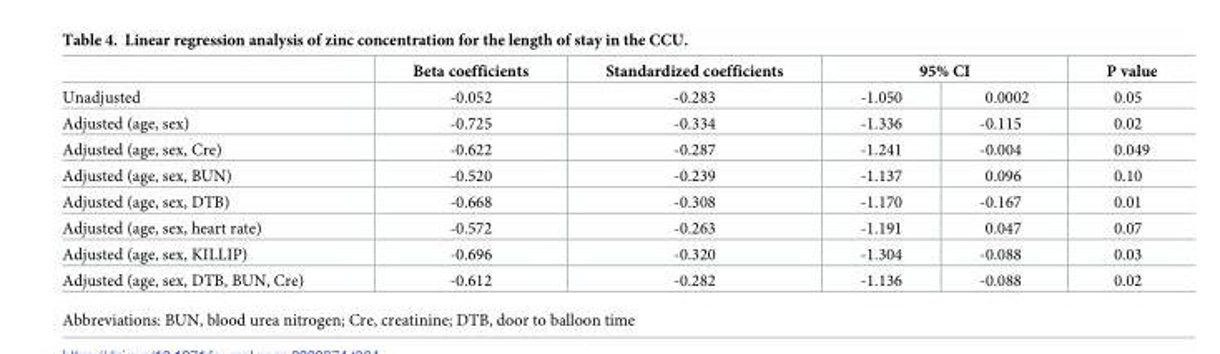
<table><thead><tr><td rowspan="2">Unadjusted</td><td rowspan="2">Beta coefficients -0.052</td><td rowspan="2">Standardized coefficients -0.283</td><td colspan="2">95% CI</td><td rowspan="2">P value 0.05</td></tr><tr><td>-1.050</td><td>0.0002</td></tr></thead><tbody><tr><td>Adjusted (age, sex)</td><td>-0.725</td><td>-0.334</td><td>-1.336</td><td>-0.115</td><td>0.02</td></tr><tr><td>Adjusted (age, sex, Cre)</td><td>-0.622</td><td>-0.287</td><td>-1.241</td><td>-0.004</td><td>0.049</td></tr><tr><td>Adjusted (age, sex, BUN)</td><td>-0.520</td><td>-0.239</td><td>-1.137</td><td>0.096</td><td>0.10</td></tr><tr><td>Adjusted (age, sex, DTB)</td><td>-0.668</td><td>-0.308</td><td>-1.170</td><td>-0.167</td><td>0.01</td></tr><tr><td>Adjusted (age, sex, heart rate)</td><td>-0.572</td><td>-0.263</td><td>-1.191</td><td>0.047</td><td>0.07</td></tr><tr><td>Adjusted (age, sex, KILLIP)</td><td>-0.696</td><td>-0.320</td><td>-1.304</td><td>-0.088</td><td>0.03</td></tr><tr><td>Adjusted (age, sex, DTB, BUN, Cre)</td><td>-0.612</td><td>-0.282</td><td>-1.136</td><td>-0.088</td><td>0.02</td></tr></tbody></table>